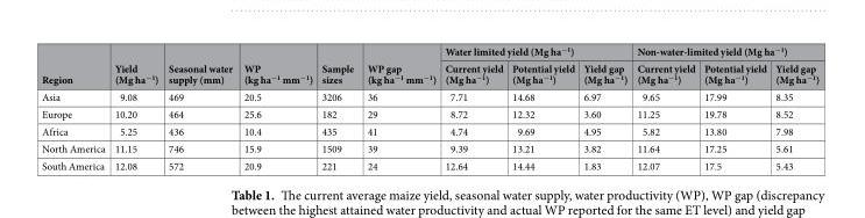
<table><thead><tr><td rowspan="2">Region</td><td rowspan="2">Yield (Mg ha<sup>−1</sup>)</td><td rowspan="2">Seasonal water supply (mm)</td><td rowspan="2">WP (kg ha<sup>−1</sup> mm<sup>−1</sup>)</td><td rowspan="2">Sample sizes</td><td rowspan="2">WP gap (kg ha<sup>−1</sup> mm<sup>−1</sup>)</td><td colspan="3">Water limited yield (Mg ha<sup>−1</sup>)</td><td colspan="3">Non-water-limited yield (Mg ha<sup>−1</sup>)</td></tr><tr><td>Current yield (Mg ha<sup>−1</sup>)</td><td>Potential yield (Mg ha<sup>−1</sup>)</td><td>Yield gap (Mg ha<sup>−1</sup>)</td><td>Current yield (Mg ha<sup>−1</sup>)</td><td>Potential yield (Mg ha<sup>−1</sup>)</td><td>Yield gap (Mg ha<sup>−1</sup>)</td></tr></thead><tbody><tr><td>Asia</td><td>9.08</td><td>469</td><td>20.5</td><td>3206</td><td>36</td><td>7.71</td><td>14.68</td><td>6.97</td><td>9.65</td><td>17.99</td><td>8.35</td></tr><tr><td>Europe</td><td>10.20</td><td>464</td><td>25.6</td><td>182</td><td>29</td><td>8.72</td><td>12.32</td><td>3.60</td><td>11.25</td><td>19.78</td><td>8.52</td></tr><tr><td>Africa</td><td>5.25</td><td>436</td><td>10.4</td><td>435</td><td>41</td><td>4.74</td><td>9.69</td><td>4.95</td><td>5.82</td><td>13.80</td><td>7.98</td></tr><tr><td>North America</td><td>11.15</td><td>746</td><td>15.9</td><td>1509</td><td>39</td><td>9.39</td><td>13.21</td><td>3.82</td><td>11.64</td><td>17.25</td><td>5.61</td></tr><tr><td>South America</td><td>12.08</td><td>572</td><td>20.9</td><td>221</td><td>24</td><td>12.64</td><td>14.44</td><td>1.83</td><td>12.07</td><td>17.5</td><td>5.43</td></tr></tbody></table>